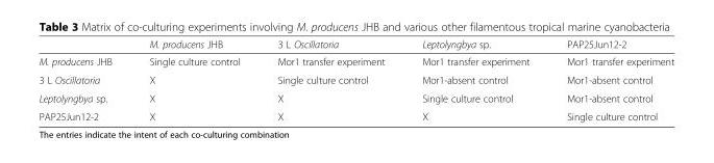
<table><thead><tr><td></td><td>M. producens JHB</td><td>3 L Oscillatoria</td><td>Leptolyngbya sp.</td><td>PAP25Jun12-2</td></tr></thead><tbody><tr><td>M. producens JHB</td><td>Single culture control</td><td>Mor1 transfer experiment</td><td>Mor1 transfer experiment</td><td>Mor1 transfer experiment</td></tr><tr><td>3 L Oscillatoria</td><td>X</td><td>Single culture control</td><td>Mor1-absent control</td><td>Mor1-absent control</td></tr><tr><td>Leptolyngbya sp.</td><td>X</td><td>X</td><td>Single culture control</td><td>Mor1-absent control</td></tr><tr><td>PAP25Jun12-2</td><td>X</td><td>X</td><td>X</td><td>Single culture control</td></tr></tbody></table>